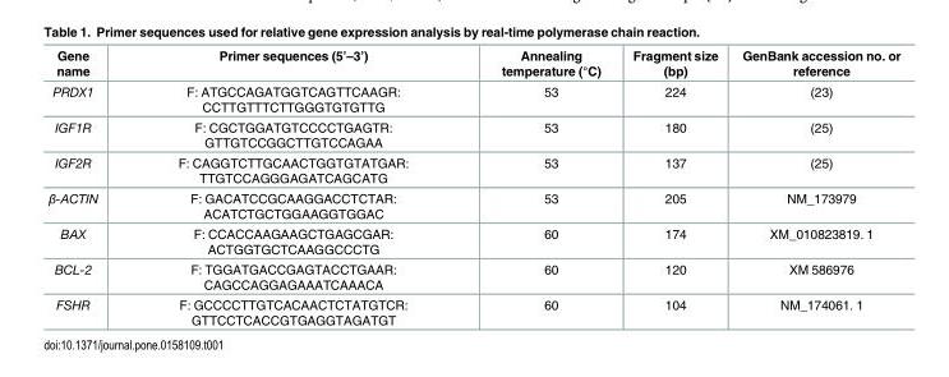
<table><thead><tr><td>Gene name</td><td>Primer sequences (5’–3’)</td><td>Annealing temperature (°C)</td><td>Fragment size (bp)</td><td>GenBank accession no. or reference</td></tr></thead><tbody><tr><td>PRDX1</td><td>F: ATGCCAGATGGTCAGTTCAAGR: CCTTGTTTCTTGGGTGTGTTG</td><td>53</td><td>224</td><td>(23)</td></tr><tr><td>IGF1R</td><td>F: CGCTGGATGTCCCCTGAGTR: GTTGTCCGGCTTGTCCAGAA</td><td>53</td><td>180</td><td>(25)</td></tr><tr><td>IGF2R</td><td>F: CAGGTCTTGCAACTGGTGTATGAR: TTGTCCAGGGAGATCAGCATG</td><td>53</td><td>137</td><td>(25)</td></tr><tr><td>β-ACTIN</td><td>F: GACATCCGCAAGGACCTCTAR: ACATCTGCTGGAAGGTGGAC</td><td>53</td><td>205</td><td>NM_173979</td></tr><tr><td>BAX</td><td>F: CCACCAAGAAGCTGAGCGAR: ACTGGTGCTCAAGGCCCTG</td><td>60</td><td>174</td><td>XM_010823819. 1</td></tr><tr><td>BCL-2</td><td>F: TGGATGACCGAGTACCTGAAR: CAGCCAGGAGAAATCAAACA</td><td>60</td><td>120</td><td>XM 586976</td></tr><tr><td>FSHR</td><td>F: GCCCCTTGTCACAACTCTATGTCR: GTTCCTCACCGTGAGGTAGATGT</td><td>60</td><td>104</td><td>NM_174061. 1</td></tr></tbody></table>